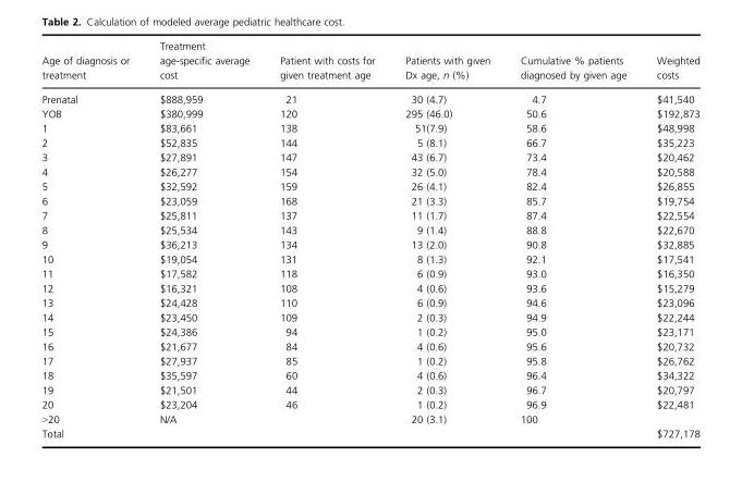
<table><thead><tr><td>Age of diagnosis or treatment</td><td>Treatment age-specific average cost</td><td>Patient with costs for given treatment age</td><td>Patients with given Dx age, n (%)</td><td>Cumulative % patients diagnosed by given age</td><td>Weighted costs</td></tr></thead><tbody><tr><td>Prenatal</td><td>$888,959</td><td>21</td><td>30 (4.7)</td><td>4.7</td><td>$41,540</td></tr><tr><td>YOB</td><td>$380,999</td><td>120</td><td>295 (46.0)</td><td>50.6</td><td>$192,873</td></tr><tr><td>1</td><td>$83,661</td><td>138</td><td>51(7.9)</td><td>58.6</td><td>$48,998</td></tr><tr><td>2</td><td>$52,835</td><td>144</td><td>5 (8.1)</td><td>66.7</td><td>$35,223</td></tr><tr><td>3</td><td>$27,891</td><td>147</td><td>43 (6.7)</td><td>73.4</td><td>$20,462</td></tr><tr><td>4</td><td>$26,277</td><td>154</td><td>32 (5.0)</td><td>78.4</td><td>$20,588</td></tr><tr><td>5</td><td>$32,592</td><td>159</td><td>26 (4.1)</td><td>82.4</td><td>$26,855</td></tr><tr><td>6</td><td>$23,059</td><td>168</td><td>21 (3.3)</td><td>85.7</td><td>$19,754</td></tr><tr><td>7</td><td>$25,811</td><td>137</td><td>11 (1.7)</td><td>87.4</td><td>$22,554</td></tr><tr><td>8</td><td>$25,534</td><td>143</td><td>9 (1.4)</td><td>88.8</td><td>$22,670</td></tr><tr><td>9</td><td>$36,213</td><td>134</td><td>13 (2.0)</td><td>90.8</td><td>$32,885</td></tr><tr><td>10</td><td>$19,054</td><td>131</td><td>8 (1.3)</td><td>92.1</td><td>$17,541</td></tr><tr><td>11</td><td>$17,582</td><td>118</td><td>6 (0.9)</td><td>93.0</td><td>$16,350</td></tr><tr><td>12</td><td>$16,321</td><td>108</td><td>4 (0.6)</td><td>93.6</td><td>$15,279</td></tr><tr><td>13</td><td>$24,428</td><td>110</td><td>6 (0.9)</td><td>94.6</td><td>$23,096</td></tr><tr><td>14</td><td>$23,450</td><td>109</td><td>2 (0.3)</td><td>94.9</td><td>$22,244</td></tr><tr><td>15</td><td>$24,386</td><td>94</td><td>1 (0.2)</td><td>95.0</td><td>$23,171</td></tr><tr><td>16</td><td>$21,677</td><td>84</td><td>4 (0.6)</td><td>95.6</td><td>$20,732</td></tr><tr><td>17</td><td>$27,937</td><td>85</td><td>1 (0.2)</td><td>95.8</td><td>$26,762</td></tr><tr><td>18</td><td>$35,597</td><td>60</td><td>4 (0.6)</td><td>96.4</td><td>$34,322</td></tr><tr><td>19</td><td>$21,501</td><td>44</td><td>2 (0.3)</td><td>96.7</td><td>$20,797</td></tr><tr><td>20</td><td>$23,204</td><td>46</td><td>1 (0.2)</td><td>96.9</td><td>$22,481</td></tr><tr><td>&gt;20</td><td>N/A</td><td></td><td>20 (3.1)</td><td>100</td><td></td></tr><tr><td>Total</td><td></td><td></td><td></td><td></td><td>$727,178</td></tr></tbody></table>